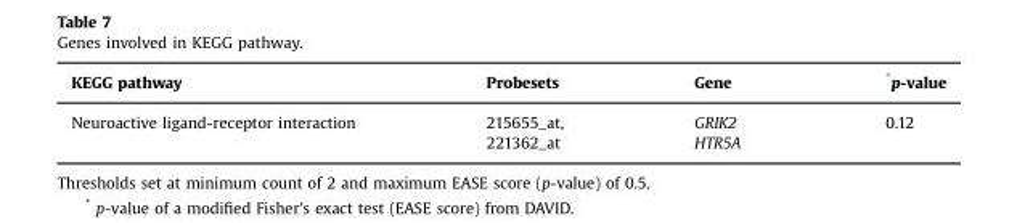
<table><thead><tr><td>KEGG pathway</td><td>Probesets</td><td>Gene</td><td>*p-value</td></tr></thead><tbody><tr><td rowspan="2">Neuroactive ligand-receptor interaction</td><td>215655_at,</td><td>GRIK2</td><td rowspan="2">0.12</td></tr><tr><td>221362_at</td><td>HTR5A</td></tr></tbody></table>